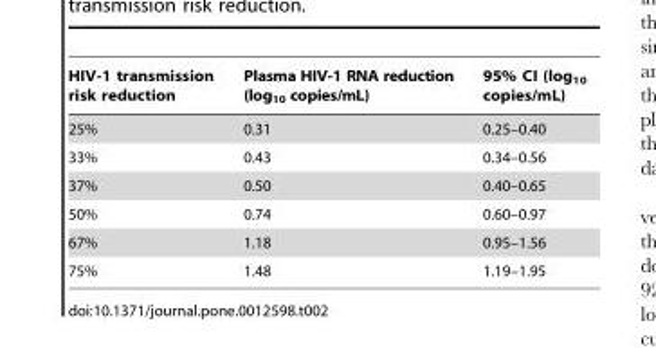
<table><thead><tr><td>HIV-1 transmission risk reduction</td><td>Plasma HIV-1 RNA reduction (log<sub>10</sub> copies/mL)</td><td>95% CI (log<sub>10</sub> copies/mL)</td></tr></thead><tbody><tr><td>25%</td><td>0.31</td><td>0.25–0.40</td></tr><tr><td>33%</td><td>0.43</td><td>0.34–0.56</td></tr><tr><td>37%</td><td>0.50</td><td>0.40–0.65</td></tr><tr><td>50%</td><td>0.74</td><td>0.60–0.97</td></tr><tr><td>67%</td><td>1.18</td><td>0.95–1.56</td></tr><tr><td>75%</td><td>1.48</td><td>1.19–1.95</td></tr></tbody></table>